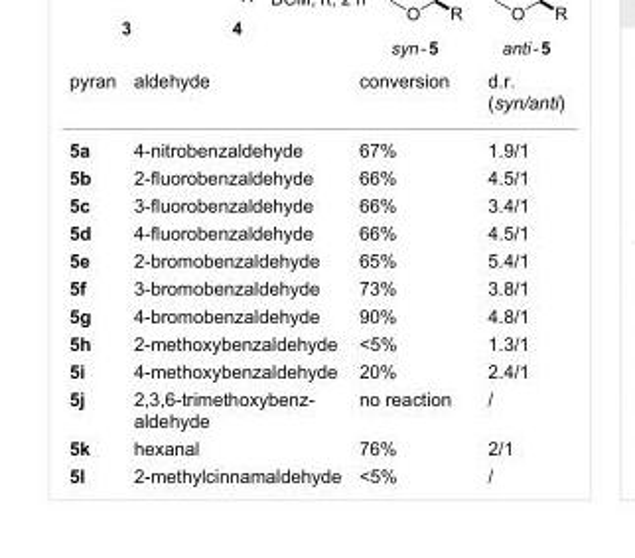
<table><tbody><tr><td>pyran</td><td>aldehyde</td><td>conversion</td><td>d.r. (syn/anti)</td></tr><tr><td>5a</td><td>4-nitrobenzaldehyde</td><td>67%</td><td>1.9/1</td></tr><tr><td>5b</td><td>2-fluorobenzaldehyde</td><td>66%</td><td>4.5/1</td></tr><tr><td>5c</td><td>3-fluorobenzaldehyde</td><td>66%</td><td>3.4/1</td></tr><tr><td>5d</td><td>4-fluorobenzaldehyde</td><td>66%</td><td>4.5/1</td></tr><tr><td>5e</td><td>2-bromobenzaldehyde</td><td>65%</td><td>5.4/1</td></tr><tr><td>5f</td><td>3-bromobenzaldehyde</td><td>73%</td><td>3.8/1</td></tr><tr><td>5g</td><td>4-bromobenzaldehyde</td><td>90%</td><td>4.8/1</td></tr><tr><td>5h</td><td>2-methoxybenzaldehyde</td><td>&lt;5%</td><td>1.3/1</td></tr><tr><td>5i</td><td>4-methoxybenzaldehyde</td><td>20%</td><td>2.4/1</td></tr><tr><td>5j</td><td>2,3,6-trimethoxybenz- aldehyde</td><td>no reaction</td><td>/</td></tr><tr><td>5k</td><td>hexanal</td><td>76%</td><td>2/1</td></tr><tr><td>5l</td><td>2-methylcinnamaldehyde</td><td>&lt;5%</td><td>/</td></tr></tbody></table>